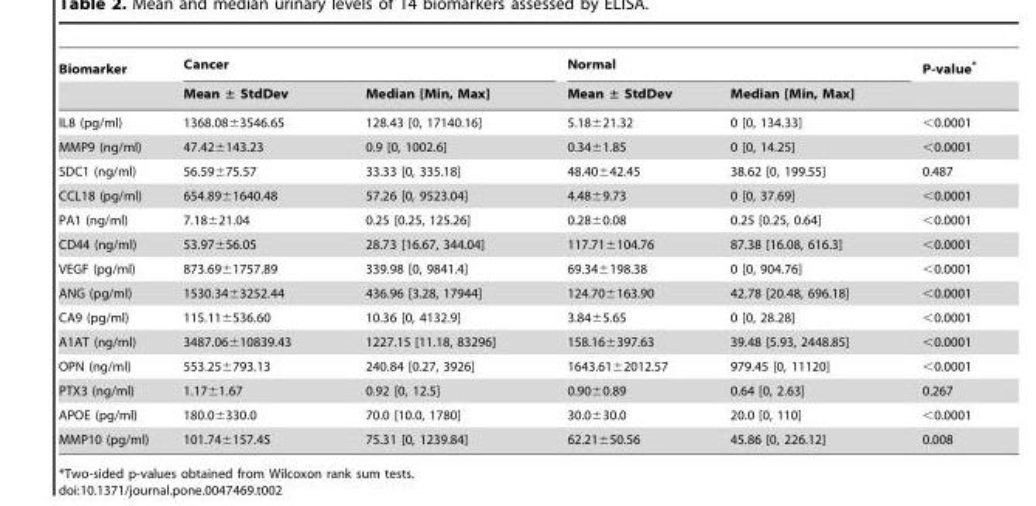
<table><thead><tr><td rowspan="2">Biomarker</td><td colspan="2">Cancer</td><td colspan="2">Normal</td><td rowspan="2">P-value*</td></tr><tr><td>Mean ± StdDev</td><td>Median [Min, Max]</td><td>Mean ± StdDev</td><td>Median [Min, Max]</td></tr></thead><tbody><tr><td>IL8 (pg/ml)</td><td>1368.08±3546.65</td><td>128.43 [0, 17140.16]</td><td>5.18±21.32</td><td>0 [0, 134.33]</td><td>&lt;0.0001</td></tr><tr><td>MMP9 (ng/ml)</td><td>47.42±143.23</td><td>0.9 [0, 1002.6]</td><td>0.34±1.85</td><td>0 [0, 14.25]</td><td>&lt;0.0001</td></tr><tr><td>SDC1 (ng/ml)</td><td>56.59±75.57</td><td>33.33 [0, 335.18]</td><td>48.40±42.45</td><td>38.62 [0, 199.55]</td><td>0.487</td></tr><tr><td>CCL18 (pg/ml)</td><td>654.89±1640.48</td><td>57.26 [0, 9523.04]</td><td>4.48±9.73</td><td>0 [0, 37.69]</td><td>&lt;0.0001</td></tr><tr><td>PA1 (ng/ml)</td><td>7.18±21.04</td><td>0.25 [0.25, 125.26]</td><td>0.28±0.08</td><td>0.25 [0.25, 0.64]</td><td>&lt;0.0001</td></tr><tr><td>CD44 (ng/ml)</td><td>53.97±56.05</td><td>28.73 [16.67, 344.04]</td><td>117.71±104.76</td><td>87.38 [16.08, 616.3]</td><td>&lt;0.0001</td></tr><tr><td>VEGF (pg/ml)</td><td>873.69±1757.89</td><td>339.98 [0, 9841.4]</td><td>69.34±198.38</td><td>0 [0, 904.76]</td><td>&lt;0.0001</td></tr><tr><td>ANG (pg/ml)</td><td>1530.34±3252.44</td><td>436.96 [3.28, 17944]</td><td>124.70±163.90</td><td>42.78 [20.48, 696.18]</td><td>&lt;0.0001</td></tr><tr><td>CA9 (pg/ml)</td><td>115.11±536.60</td><td>10.36 [0, 4132.9]</td><td>3.84±5.65</td><td>0 [0, 28.28]</td><td>&lt;0.0001</td></tr><tr><td>A1AT (ng/ml)</td><td>3487.06±10839.43</td><td>1227.15 [11.18, 83296]</td><td>158.16±397.63</td><td>39.48 [5.93, 2448.85]</td><td>&lt;0.0001</td></tr><tr><td>OPN (ng/ml)</td><td>553.25±793.13</td><td>240.84 [0.27, 3926]</td><td>1643.61±2012.57</td><td>979.45 [0, 11120]</td><td>&lt;0.0001</td></tr><tr><td>PTX3 (ng/ml)</td><td>1.17±1.67</td><td>0.92 [0, 12.5]</td><td>0.90±0.89</td><td>0.64 [0, 2.63]</td><td>0.267</td></tr><tr><td>APOE (pg/ml)</td><td>180.0±330.0</td><td>70.0 [10.0, 1780]</td><td>30.0±30.0</td><td>20.0 [0, 110]</td><td>&lt;0.0001</td></tr><tr><td>MMP10 (pg/ml)</td><td>101.74±157.45</td><td>75.31 [0, 1239.84]</td><td>62.21±50.56</td><td>45.86 [0, 226.12]</td><td>0.008</td></tr></tbody></table>